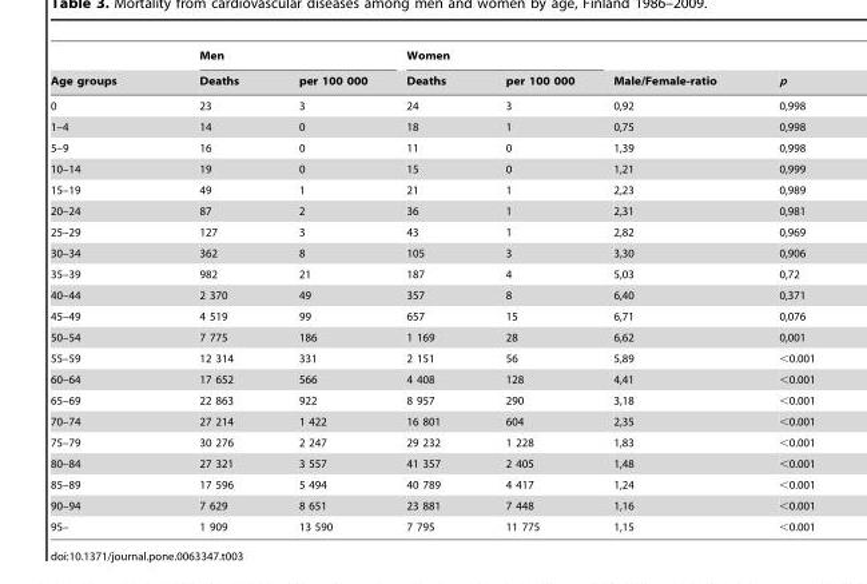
<table><thead><tr><td rowspan="2">Age groups</td><td colspan="2">Men</td><td colspan="2">Women</td><td rowspan="2">Male/Female-ratio</td><td rowspan="2">p</td></tr><tr><td>Deaths</td><td>per 100 000</td><td>Deaths</td><td>per 100 000</td></tr></thead><tbody><tr><td>0</td><td>23</td><td>3</td><td>24</td><td>3</td><td>0,92</td><td>0,998</td></tr><tr><td>1–4</td><td>14</td><td>0</td><td>18</td><td>1</td><td>0,75</td><td>0,998</td></tr><tr><td>5–9</td><td>16</td><td>0</td><td>11</td><td>0</td><td>1,39</td><td>0,998</td></tr><tr><td>10–14</td><td>19</td><td>0</td><td>15</td><td>0</td><td>1,21</td><td>0,999</td></tr><tr><td>15–19</td><td>49</td><td>1</td><td>21</td><td>1</td><td>2,23</td><td>0,989</td></tr><tr><td>20–24</td><td>87</td><td>2</td><td>36</td><td>1</td><td>2,31</td><td>0,981</td></tr><tr><td>25–29</td><td>127</td><td>3</td><td>43</td><td>1</td><td>2,82</td><td>0,969</td></tr><tr><td>30–34</td><td>362</td><td>8</td><td>105</td><td>3</td><td>3,30</td><td>0,906</td></tr><tr><td>35–39</td><td>982</td><td>21</td><td>187</td><td>4</td><td>5,03</td><td>0,72</td></tr><tr><td>40–44</td><td>2 370</td><td>49</td><td>357</td><td>8</td><td>6,40</td><td>0,371</td></tr><tr><td>45–49</td><td>4 519</td><td>99</td><td>657</td><td>15</td><td>6,71</td><td>0,076</td></tr><tr><td>50–54</td><td>7 775</td><td>186</td><td>1 169</td><td>28</td><td>6,62</td><td>0,001</td></tr><tr><td>55–59</td><td>12 314</td><td>331</td><td>2 151</td><td>56</td><td>5,89</td><td>&lt;0.001</td></tr><tr><td>60–64</td><td>17 652</td><td>566</td><td>4 408</td><td>128</td><td>4,41</td><td>&lt;0.001</td></tr><tr><td>65–69</td><td>22 863</td><td>922</td><td>8 957</td><td>290</td><td>3,18</td><td>&lt;0.001</td></tr><tr><td>70–74</td><td>27 214</td><td>1 422</td><td>16 801</td><td>604</td><td>2,35</td><td>&lt;0.001</td></tr><tr><td>75–79</td><td>30 276</td><td>2 247</td><td>29 232</td><td>1 228</td><td>1,83</td><td>&lt;0.001</td></tr><tr><td>80–84</td><td>27 321</td><td>3 557</td><td>41 357</td><td>2 405</td><td>1,48</td><td>&lt;0.001</td></tr><tr><td>85–89</td><td>17 596</td><td>5 494</td><td>40 789</td><td>4 417</td><td>1,24</td><td>&lt;0.001</td></tr><tr><td>90–94</td><td>7 629</td><td>8 651</td><td>23 881</td><td>7 448</td><td>1,16</td><td>&lt;0.001</td></tr><tr><td>95–</td><td>1 909</td><td>13 590</td><td>7 795</td><td>11 775</td><td>1,15</td><td>&lt;0.001</td></tr></tbody></table>